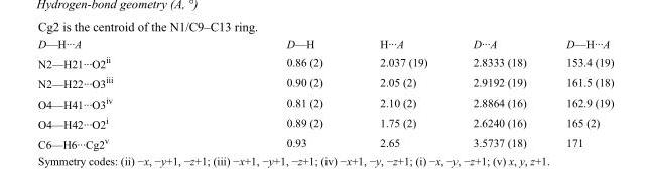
<table><tbody><tr><td>D—H···A</td><td>D—H</td><td>H···A</td><td>D···A</td><td>D—H···A</td></tr><tr><td>N2—H21···O2<sup>ii</sup></td><td>0.86 (2)</td><td>2.037 (19)</td><td>2.8333 (18)</td><td>153.4 (19)</td></tr><tr><td>N2—H22···O3<sup>iii</sup></td><td>0.90 (2)</td><td>2.05 (2)</td><td>2.9192 (19)</td><td>161.5 (18)</td></tr><tr><td>O4—H41···O3<sup>iv</sup></td><td>0.81 (2)</td><td>2.10 (2)</td><td>2.8864 (16)</td><td>162.9 (19)</td></tr><tr><td>O4—H42···O2<sup>i</sup></td><td>0.89 (2)</td><td>1.75 (2)</td><td>2.6240 (16)</td><td>165 (2)</td></tr><tr><td>C6—H6···Cg2<sup>v</sup></td><td>0.93</td><td>2.65</td><td>3.5737 (18)</td><td>171</td></tr></tbody></table>